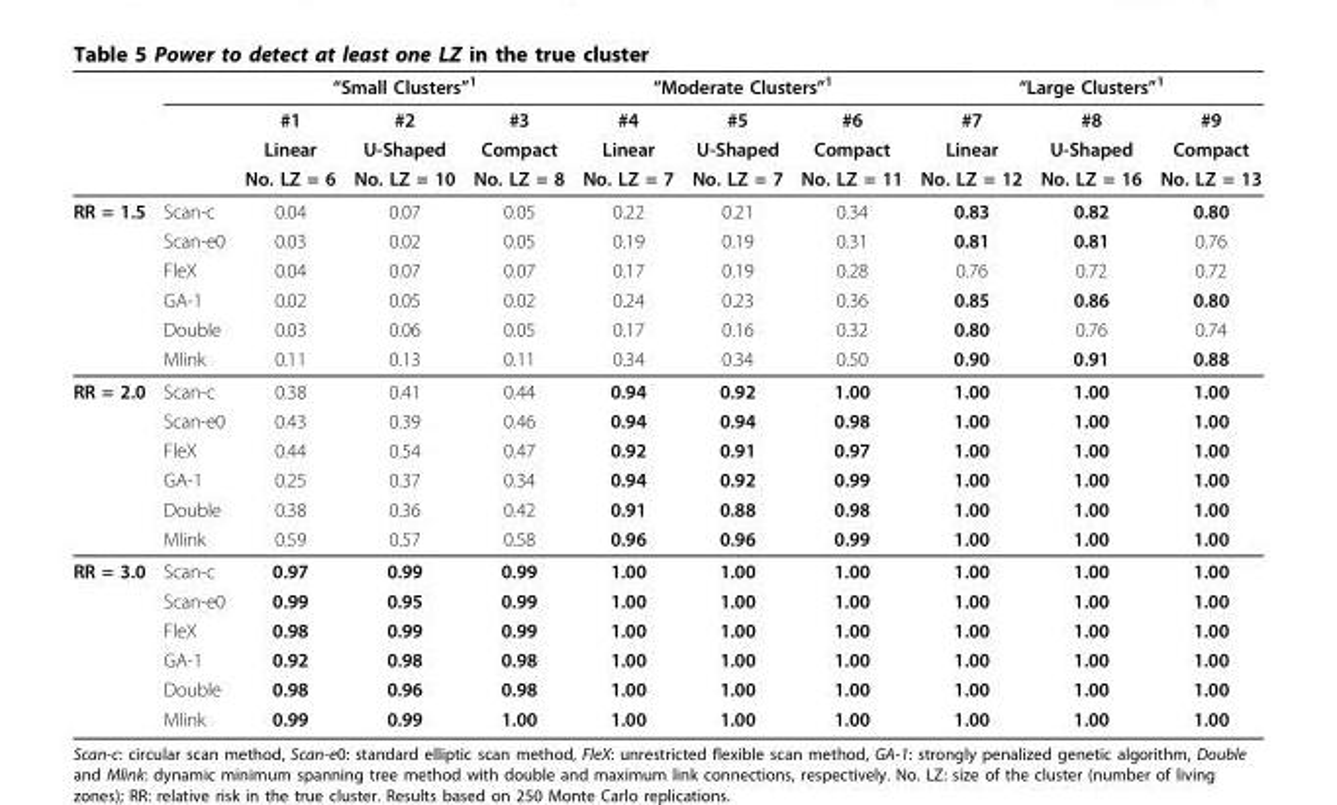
<table><thead><tr><td rowspan="4"></td><td rowspan="4"></td><td colspan="3">“Small Clusters”1</td><td colspan="3">“Moderate Clusters”1</td><td colspan="3">“Large Clusters”1</td></tr><tr><td rowspan="3">#1 Linear No. LZ = 6</td><td rowspan="3">#2 U-Shaped No. LZ = 10</td><td rowspan="3">#3 Compact No. LZ = 8</td><td rowspan="3">#4 Linear No. LZ = 7</td><td rowspan="3">#5 U-Shaped No. LZ = 7</td><td rowspan="3">#6 Compact No. LZ = 11</td><td rowspan="3">#7 Linear No. LZ = 12</td><td rowspan="3">#8 U-Shaped No. LZ = 16</td><td rowspan="3">#9 Compact No. LZ = 13</td></tr><tr></tr><tr></tr></thead><tbody><tr><td rowspan="6">RR = 1.5</td><td>Scan-c</td><td>0.04</td><td>0.07</td><td>0.05</td><td>0.22</td><td>0.21</td><td>0.34</td><td>0.83</td><td>0.82</td><td>0.80</td></tr><tr><td>Scan-e0</td><td>0.03</td><td>0.02</td><td>0.05</td><td>0.19</td><td>0.19</td><td>0.31</td><td>0.81</td><td>0.81</td><td>0.76</td></tr><tr><td>FleX</td><td>0.04</td><td>0.07</td><td>0.07</td><td>0.17</td><td>0.19</td><td>0.28</td><td>0.76</td><td>0.72</td><td>0.72</td></tr><tr><td>GA-1</td><td>0.02</td><td>0.05</td><td>0.02</td><td>0.24</td><td>0.23</td><td>0.36</td><td>0.85</td><td>0.86</td><td>0.80</td></tr><tr><td>Double</td><td>0.03</td><td>0.06</td><td>0.05</td><td>0.17</td><td>0.16</td><td>0.32</td><td>0.80</td><td>0.76</td><td>0.74</td></tr><tr><td>Mlink</td><td>0.11</td><td>0.13</td><td>0.11</td><td>0.34</td><td>0.34</td><td>0.50</td><td>0.90</td><td>0.91</td><td>0.88</td></tr><tr><td rowspan="6">RR = 2.0</td><td>Scan-c</td><td>0.38</td><td>0.41</td><td>0.44</td><td>0.94</td><td>0.92</td><td>1.00</td><td>1.00</td><td>1.00</td><td>1.00</td></tr><tr><td>Scan-e0</td><td>0.43</td><td>0.39</td><td>0.46</td><td>0.94</td><td>0.94</td><td>0.98</td><td>1.00</td><td>1.00</td><td>1.00</td></tr><tr><td>FleX</td><td>0.44</td><td>0.54</td><td>0.47</td><td>0.92</td><td>0.91</td><td>0.97</td><td>1.00</td><td>1.00</td><td>1.00</td></tr><tr><td>GA-1</td><td>0.25</td><td>0.37</td><td>0.34</td><td>0.94</td><td>0.92</td><td>0.99</td><td>1.00</td><td>1.00</td><td>1.00</td></tr><tr><td>Double</td><td>0.38</td><td>0.36</td><td>0.42</td><td>0.91</td><td>0.88</td><td>0.98</td><td>1.00</td><td>1.00</td><td>1.00</td></tr><tr><td>Mlink</td><td>0.59</td><td>0.57</td><td>0.58</td><td>0.96</td><td>0.96</td><td>0.99</td><td>1.00</td><td>1.00</td><td>1.00</td></tr><tr><td rowspan="6">RR = 3.0</td><td>Scan-c</td><td>0.97</td><td>0.99</td><td>0.99</td><td>1.00</td><td>1.00</td><td>1.00</td><td>1.00</td><td>1.00</td><td>1.00</td></tr><tr><td>Scan-e0</td><td>0.99</td><td>0.95</td><td>0.99</td><td>1.00</td><td>1.00</td><td>1.00</td><td>1.00</td><td>1.00</td><td>1.00</td></tr><tr><td>FleX</td><td>0.98</td><td>0.99</td><td>0.99</td><td>1.00</td><td>1.00</td><td>1.00</td><td>1.00</td><td>1.00</td><td>1.00</td></tr><tr><td>GA-1</td><td>0.92</td><td>0.98</td><td>0.98</td><td>1.00</td><td>1.00</td><td>1.00</td><td>1.00</td><td>1.00</td><td>1.00</td></tr><tr><td>Double</td><td>0.98</td><td>0.96</td><td>0.98</td><td>1.00</td><td>1.00</td><td>1.00</td><td>1.00</td><td>1.00</td><td>1.00</td></tr><tr><td>Mlink</td><td>0.99</td><td>0.99</td><td>1.00</td><td>1.00</td><td>1.00</td><td>1.00</td><td>1.00</td><td>1.00</td><td>1.00</td></tr></tbody></table>